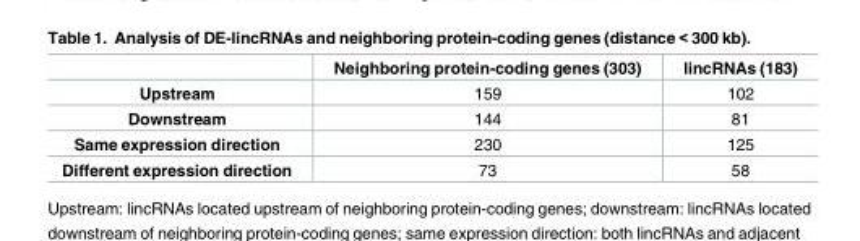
<table><thead><tr><td></td><td>Neighboring protein-coding genes (303)</td><td>lincRNAs (183)</td></tr></thead><tbody><tr><td>Upstream</td><td>159</td><td>102</td></tr><tr><td>Downstream</td><td>144</td><td>81</td></tr><tr><td>Same expression direction</td><td>230</td><td>125</td></tr><tr><td>Different expression direction</td><td>73</td><td>58</td></tr></tbody></table>